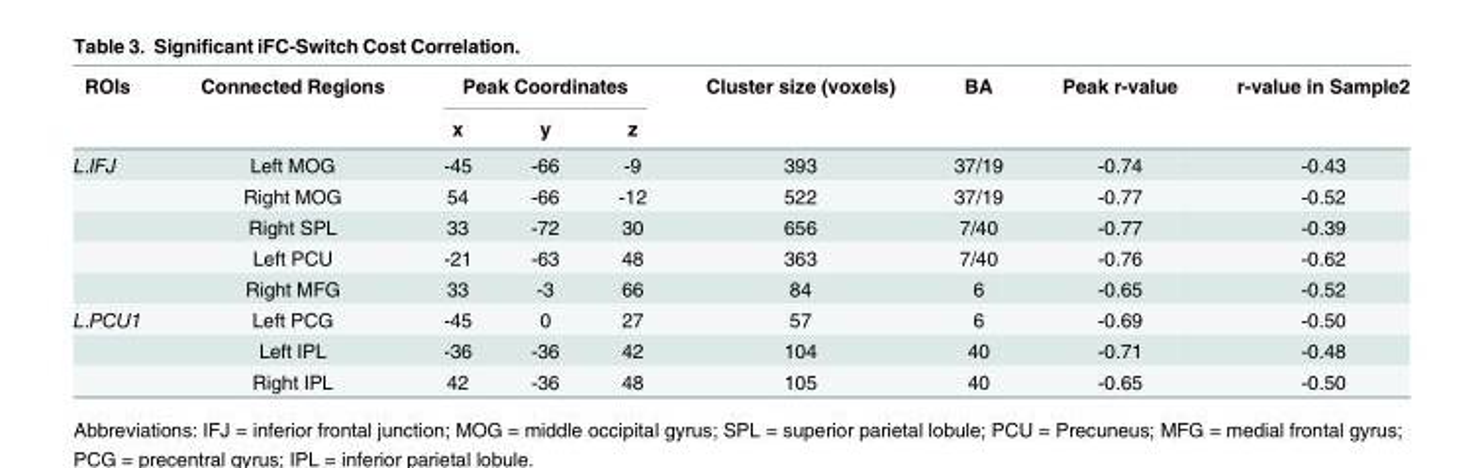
<table><thead><tr><td rowspan="2">ROIs</td><td rowspan="2">Connected Regions</td><td colspan="3">Peak Coordinates</td><td rowspan="2">Cluster size (voxels)</td><td rowspan="2">BA</td><td rowspan="2">Peak r-value</td><td rowspan="2">r-value in Sample2</td></tr><tr><td>x</td><td>y</td><td>z</td></tr></thead><tbody><tr><td rowspan="5">L.IFJ</td><td>Left MOG</td><td>-45</td><td>-66</td><td>-9</td><td>393</td><td>37/19</td><td>-0.74</td><td>-0.43</td></tr><tr><td>Right MOG</td><td>54</td><td>-66</td><td>-12</td><td>522</td><td>37/19</td><td>-0.77</td><td>-0.52</td></tr><tr><td>Right SPL</td><td>33</td><td>-72</td><td>30</td><td>656</td><td>7/40</td><td>-0.77</td><td>-0.39</td></tr><tr><td>Left PCU</td><td>-21</td><td>-63</td><td>48</td><td>363</td><td>7/40</td><td>-0.76</td><td>-0.62</td></tr><tr><td>Right MFG</td><td>33</td><td>-3</td><td>66</td><td>84</td><td>6</td><td>-0.65</td><td>-0.52</td></tr><tr><td rowspan="3">L.PCU1</td><td>Left PCG</td><td>-45</td><td>0</td><td>27</td><td>57</td><td>6</td><td>-0.69</td><td>-0.50</td></tr><tr><td>Left IPL</td><td>-36</td><td>-36</td><td>42</td><td>104</td><td>40</td><td>-0.71</td><td>-0.48</td></tr><tr><td>Right IPL</td><td>42</td><td>-36</td><td>48</td><td>105</td><td>40</td><td>-0.65</td><td>-0.50</td></tr></tbody></table>